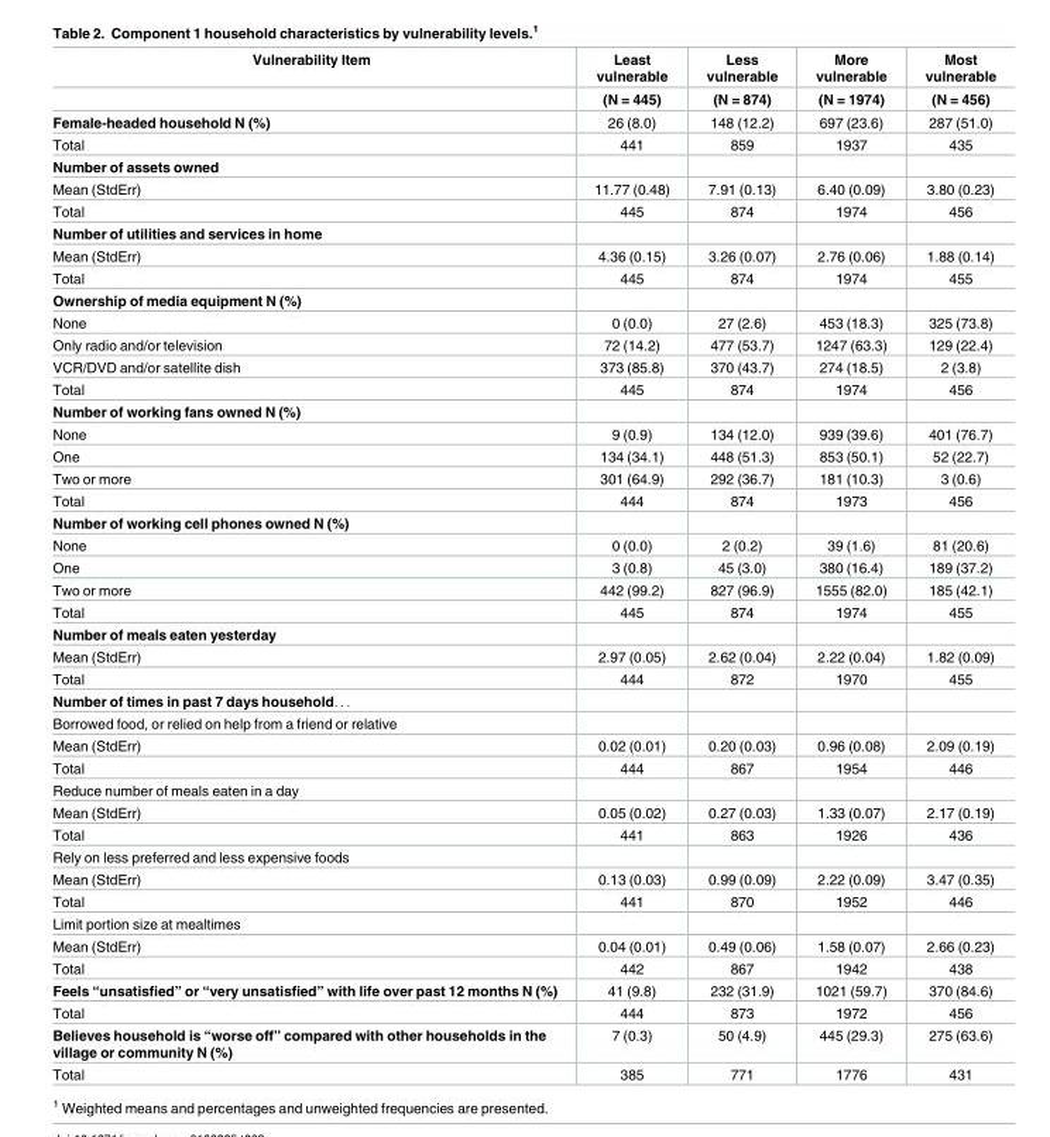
<table><thead><tr><td rowspan="2">Vulnerability Item</td><td rowspan="2">Least vulnerable (N = 445)</td><td rowspan="2">Less vulnerable (N = 874)</td><td rowspan="2">More vulnerable (N = 1974)</td><td rowspan="2">Most vulnerable (N = 456)</td></tr><tr></tr></thead><tbody><tr><td>Female-headed household N (%)</td><td>26 (8.0)</td><td>148 (12.2)</td><td>697 (23.6)</td><td>287 (51.0)</td></tr><tr><td>Total</td><td>441</td><td>859</td><td>1937</td><td>435</td></tr><tr><td colspan="5">Number of assets owned</td></tr><tr><td>Mean (StdErr)</td><td>11.77 (0.48)</td><td>7.91 (0.13)</td><td>6.40 (0.09)</td><td>3.80 (0.23)</td></tr><tr><td>Total</td><td>445</td><td>874</td><td>1974</td><td>456</td></tr><tr><td colspan="5">Number of utilities and services in home</td></tr><tr><td>Mean (StdErr)</td><td>4.36 (0.15)</td><td>3.26 (0.07)</td><td>2.76 (0.06)</td><td>1.88 (0.14)</td></tr><tr><td>Total</td><td>445</td><td>874</td><td>1974</td><td>455</td></tr><tr><td colspan="5">Ownership of media equipment N (%)</td></tr><tr><td>None</td><td>0 (0.0)</td><td>27 (2.6)</td><td>453 (18.3)</td><td>325 (73.8)</td></tr><tr><td>Only radio and/or television</td><td>72 (14.2)</td><td>477 (53.7)</td><td>1247 (63.3)</td><td>129 (22.4)</td></tr><tr><td>VCR/DVD and/or satellite dish</td><td>373 (85.8)</td><td>370 (43.7)</td><td>274 (18.5)</td><td>2 (3.8)</td></tr><tr><td>Total</td><td>445</td><td>874</td><td>1974</td><td>456</td></tr><tr><td colspan="5">Number of working fans owned N (%)</td></tr><tr><td>None</td><td>9 (0.9)</td><td>134 (12.0)</td><td>939 (39.6)</td><td>401 (76.7)</td></tr><tr><td>One</td><td>134 (34.1)</td><td>448 (51.3)</td><td>853 (50.1)</td><td>52 (22.7)</td></tr><tr><td>Two or more</td><td>301 (64.9)</td><td>292 (36.7)</td><td>181 (10.3)</td><td>3 (0.6)</td></tr><tr><td>Total</td><td>444</td><td>874</td><td>1973</td><td>456</td></tr><tr><td colspan="5">Number of working cell phones owned N (%)</td></tr><tr><td>None</td><td>0 (0.0)</td><td>2 (0.2)</td><td>39 (1.6)</td><td>81 (20.6)</td></tr><tr><td>One</td><td>3 (0.8)</td><td>45 (3.0)</td><td>380 (16.4)</td><td>189 (37.2)</td></tr><tr><td>Two or more</td><td>442 (99.2)</td><td>827 (96.9)</td><td>1555 (82.0)</td><td>185 (42.1)</td></tr><tr><td>Total</td><td>445</td><td>874</td><td>1974</td><td>455</td></tr><tr><td colspan="5">Number of meals eaten yesterday</td></tr><tr><td>Mean (StdErr)</td><td>2.97 (0.05)</td><td>2.62 (0.04)</td><td>2.22 (0.04)</td><td>1.82 (0.09)</td></tr><tr><td>Total</td><td>444</td><td>872</td><td>1970</td><td>455</td></tr><tr><td colspan="5">Number of times in past 7 days household. . .</td></tr><tr><td colspan="5">Borrowed food, or relied on help from a friend or relative</td></tr><tr><td>Mean (StdErr)</td><td>0.02 (0.01)</td><td>0.20 (0.03)</td><td>0.96 (0.08)</td><td>2.09 (0.19)</td></tr><tr><td>Total</td><td>444</td><td>867</td><td>1954</td><td>446</td></tr><tr><td colspan="5">Reduce number of meals eaten in a day</td></tr><tr><td>Mean (StdErr)</td><td>0.05 (0.02)</td><td>0.27 (0.03)</td><td>1.33 (0.07)</td><td>2.17 (0.19)</td></tr><tr><td>Total</td><td>441</td><td>863</td><td>1926</td><td>436</td></tr><tr><td colspan="5">Rely on less preferred and less expensive foods</td></tr><tr><td>Mean (StdErr)</td><td>0.13 (0.03)</td><td>0.99 (0.09)</td><td>2.22 (0.09)</td><td>3.47 (0.35)</td></tr><tr><td>Total</td><td>441</td><td>870</td><td>1952</td><td>446</td></tr><tr><td colspan="5">Limit portion size at mealtimes</td></tr><tr><td>Mean (StdErr)</td><td>0.04 (0.01)</td><td>0.49 (0.06)</td><td>1.58 (0.07)</td><td>2.66 (0.23)</td></tr><tr><td>Total</td><td>442</td><td>867</td><td>1942</td><td>438</td></tr><tr><td>Feels “unsatisfied” or “very unsatisfied” with life over past 12 months N (%)</td><td>41 (9.8)</td><td>232 (31.9)</td><td>1021 (59.7)</td><td>370 (84.6)</td></tr><tr><td>Total</td><td>444</td><td>873</td><td>1972</td><td>456</td></tr><tr><td>Believes household is “worse off” compared with other households in the village or community N (%)</td><td>7 (0.3)</td><td>50 (4.9)</td><td>445 (29.3)</td><td>275 (63.6)</td></tr><tr><td>Total</td><td>385</td><td>771</td><td>1776</td><td>431</td></tr></tbody></table>